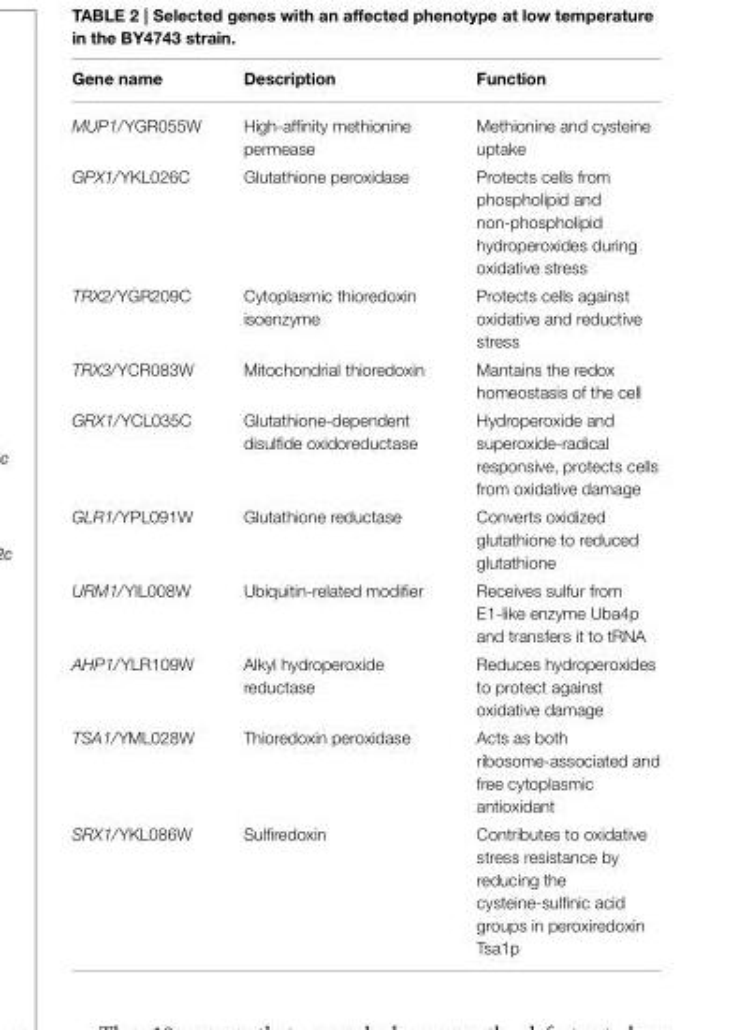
<table><thead><tr><td>Gene name</td><td>Description</td><td>Function</td></tr></thead><tbody><tr><td>MUP1/YGR055W</td><td>High-affinity methionine permease</td><td>Methionine and cysteine uptake</td></tr><tr><td>GPX1/YKL026C</td><td>Glutathione peroxidase</td><td>Protects cells from phospholipid and non-phospholipid hydroperoxides during oxidative stress</td></tr><tr><td>TRX2/YGR209C</td><td>Cytoplasmic thioredoxin isoenzyme</td><td>Protects cells against oxidative and reductive stress</td></tr><tr><td>TRX3/YCR083W</td><td>Mitochondrial thioredoxin</td><td>Mantains the redox homeostasis of the cell</td></tr><tr><td>GRX1/YCL035C</td><td>Glutathione-dependent disulfide oxidoreductase</td><td>Hydroperoxide and superoxide-radical responsive, protects cells from oxidative damage</td></tr><tr><td>GLR1/YPL091W</td><td>Glutathione reductase</td><td>Converts oxidized glutathione to reduced glutathione</td></tr><tr><td>URM1/YIL008W</td><td>Ubiquitin-related modifier</td><td>Receives sulfur from E1-like enzyme Uba4p and transfers it to tRNA</td></tr><tr><td>AHP1/YLR109W</td><td>Alkyl hydroperoxide reductase</td><td>Reduces hydroperoxides to protect against oxidative damage</td></tr><tr><td>TSA1/YML028W</td><td>Thioredoxin peroxidase</td><td>Acts as both ribosome-associated and free cytoplasmic antioxidant</td></tr><tr><td>SRX1/YKL086W</td><td>Sulfiredoxin</td><td>Contributes to oxidative stress resistance by reducing the cysteine-sulfinic acid groups in peroxiredoxin Tsa1p</td></tr></tbody></table>